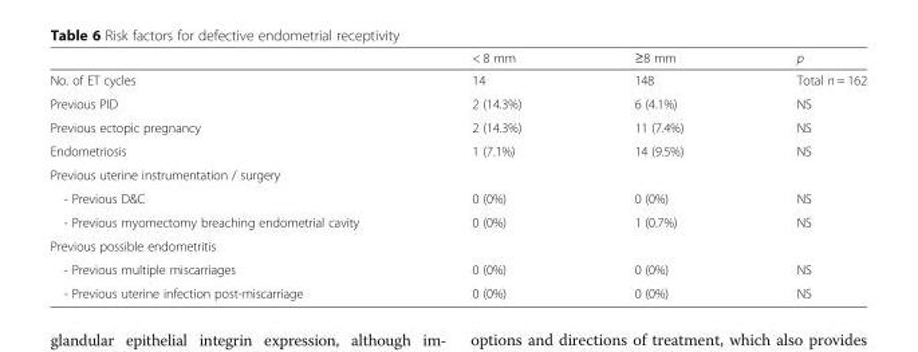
<table><thead><tr><td></td><td>&lt; 8 mm</td><td>≥8 mm</td><td>p</td></tr></thead><tbody><tr><td>No. of ET cycles</td><td>14</td><td>148</td><td>Total n = 162</td></tr><tr><td>Previous PID</td><td>2 (14.3%)</td><td>6 (4.1%)</td><td>NS</td></tr><tr><td>Previous ectopic pregnancy</td><td>2 (14.3%)</td><td>11 (7.4%)</td><td>NS</td></tr><tr><td>Endometriosis</td><td>1 (7.1%)</td><td>14 (9.5%)</td><td>NS</td></tr><tr><td colspan="4">Previous uterine instrumentation / surgery</td></tr><tr><td>- Previous D&amp;C</td><td>0 (0%)</td><td>0 (0%)</td><td>NS</td></tr><tr><td>- Previous myomectomy breaching endometrial cavity</td><td>0 (0%)</td><td>1 (0.7%)</td><td>NS</td></tr><tr><td colspan="4">Previous possible endometritis</td></tr><tr><td>- Previous multiple miscarriages</td><td>0 (0%)</td><td>0 (0%)</td><td>NS</td></tr><tr><td>- Previous uterine infection post-miscarriage</td><td>0 (0%)</td><td>0 (0%)</td><td>NS</td></tr></tbody></table>